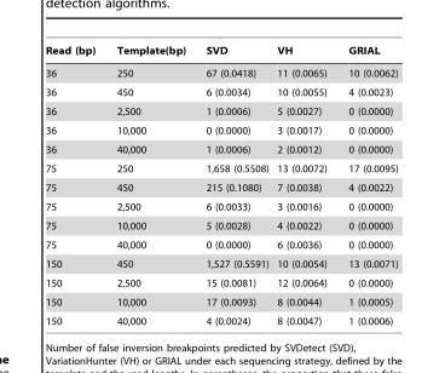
<table><thead><tr><td>Read (bp)</td><td>Template(bp)</td><td>SVD</td><td>VH</td><td>GRIAL</td></tr></thead><tbody><tr><td>36</td><td>250</td><td>67 (0.0418)</td><td>11 (0.0065)</td><td>10 (0.0062)</td></tr><tr><td>36</td><td>450</td><td>6 (0.0034)</td><td>10 (0.0055)</td><td>4 (0.0023)</td></tr><tr><td>36</td><td>2,500</td><td>1 (0.0006)</td><td>5 (0.0027)</td><td>0 (0.0000)</td></tr><tr><td>36</td><td>10,000</td><td>0 (0.0000)</td><td>3 (0.0017)</td><td>0 (0.0000)</td></tr><tr><td>36</td><td>40,000</td><td>1 (0.0006)</td><td>2 (0.0012)</td><td>0 (0.0000)</td></tr><tr><td>75</td><td>250</td><td>1,658 (0.5508)</td><td>13 (0.0072)</td><td>17 (0.0095)</td></tr><tr><td>75</td><td>450</td><td>215 (0.1080)</td><td>7 (0.0038)</td><td>4 (0.0022)</td></tr><tr><td>75</td><td>2,500</td><td>6 (0.0033)</td><td>3 (0.0016)</td><td>0 (0.0000)</td></tr><tr><td>75</td><td>10,000</td><td>5 (0.0028)</td><td>4 (0.0022)</td><td>0 (0.0000)</td></tr><tr><td>75</td><td>40,000</td><td>0 (0.0000)</td><td>6 (0.0036)</td><td>0 (0.0000)</td></tr><tr><td>150</td><td>450</td><td>1,527 (0.5591)</td><td>10 (0.0054)</td><td>13 (0.0071)</td></tr><tr><td>150</td><td>2,500</td><td>15 (0.0081)</td><td>12 (0.0064)</td><td>0 (0.0000)</td></tr><tr><td>150</td><td>10,000</td><td>17 (0.0093)</td><td>8 (0.0044)</td><td>1 (0.0005)</td></tr><tr><td>150</td><td>40,000</td><td>4 (0.0024)</td><td>8 (0.0047)</td><td>1 (0.0006)</td></tr></tbody></table>